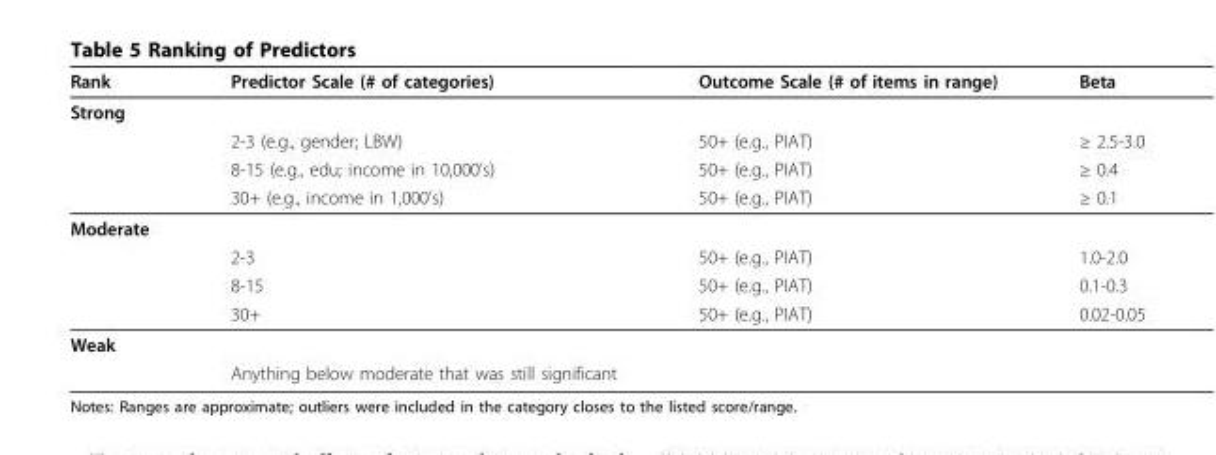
<table><thead><tr><td>Rank</td><td>Predictor Scale (# of categories)</td><td>Outcome Scale (# of items in range)</td><td>Beta</td></tr></thead><tbody><tr><td colspan="4">Strong</td></tr><tr><td></td><td>2-3 (e.g., gender; LBW)</td><td>50+ (e.g., PIAT)</td><td>≥ 2.5-3.0</td></tr><tr><td></td><td>8-15 (e.g., edu; income in 10,000’s)</td><td>50+ (e.g., PIAT)</td><td>≥ 0.4</td></tr><tr><td></td><td>30+ (e.g., income in 1,000’s)</td><td>50+ (e.g., PIAT)</td><td>≥ 0.1</td></tr><tr><td colspan="4">Moderate</td></tr><tr><td></td><td>2-3</td><td>50+ (e.g., PIAT)</td><td>1.0-2.0</td></tr><tr><td></td><td>8-15</td><td>50+ (e.g., PIAT)</td><td>0.1-0.3</td></tr><tr><td></td><td>30+</td><td>50+ (e.g., PIAT)</td><td>0.02-0.05</td></tr><tr><td colspan="4">Weak</td></tr><tr><td></td><td>Anything below moderate that was still significant</td><td></td><td></td></tr></tbody></table>